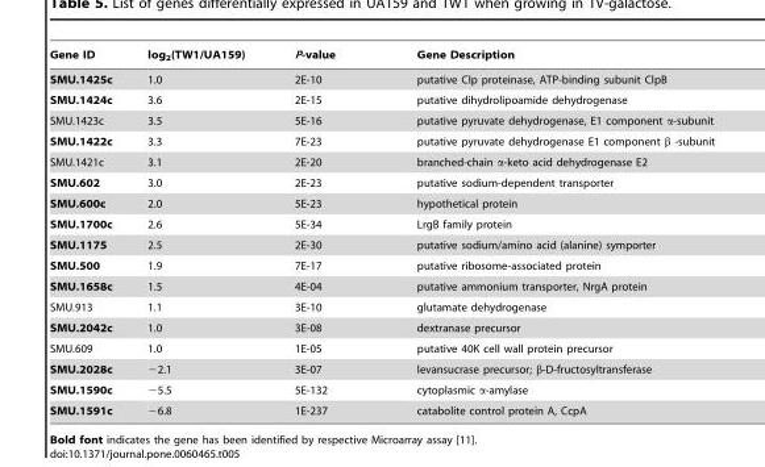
<table><thead><tr><td>Gene ID</td><td>log<sub>2</sub>(TW1/UA159)</td><td>P-value</td><td>Gene Description</td></tr></thead><tbody><tr><td>SMU.1425c</td><td>1.0</td><td>2E-10</td><td>putative Clp proteinase, ATP-binding subunit ClpB</td></tr><tr><td>SMU.1424c</td><td>3.6</td><td>2E-15</td><td>putative dihydrolipoamide dehydrogenase</td></tr><tr><td>SMU.1423c</td><td>3.5</td><td>5E-16</td><td>putative pyruvate dehydrogenase, E1 component α-subunit</td></tr><tr><td>SMU.1422c</td><td>3.3</td><td>7E-23</td><td>putative pyruvate dehydrogenase E1 component β -subunit</td></tr><tr><td>SMU.1421c</td><td>3.1</td><td>2E-20</td><td>branched-chain α-keto acid dehydrogenase E2</td></tr><tr><td>SMU.602</td><td>3.0</td><td>2E-23</td><td>putative sodium-dependent transporter</td></tr><tr><td>SMU.600c</td><td>2.0</td><td>5E-23</td><td>hypothetical protein</td></tr><tr><td>SMU.1700c</td><td>2.6</td><td>5E-34</td><td>LrgB family protein</td></tr><tr><td>SMU.1175</td><td>2.5</td><td>2E-30</td><td>putative sodium/amino acid (alanine) symporter</td></tr><tr><td>SMU.500</td><td>1.9</td><td>7E-17</td><td>putative ribosome-associated protein</td></tr><tr><td>SMU.1658c</td><td>1.5</td><td>4E-04</td><td>putative ammonium transporter, NrgA protein</td></tr><tr><td>SMU.913</td><td>1.1</td><td>3E-10</td><td>glutamate dehydrogenase</td></tr><tr><td>SMU.2042c</td><td>1.0</td><td>3E-08</td><td>dextranase precursor</td></tr><tr><td>SMU.609</td><td>1.0</td><td>1E-05</td><td>putative 40K cell wall protein precursor</td></tr><tr><td>SMU.2028c</td><td>−2.1</td><td>3E-07</td><td>levansucrase precursor; β-D-fructosyltransferase</td></tr><tr><td>SMU.1590c</td><td>−5.5</td><td>5E-132</td><td>cytoplasmic α-amylase</td></tr><tr><td>SMU.1591c</td><td>−6.8</td><td>1E-237</td><td>catabolite control protein A, CcpA</td></tr></tbody></table>